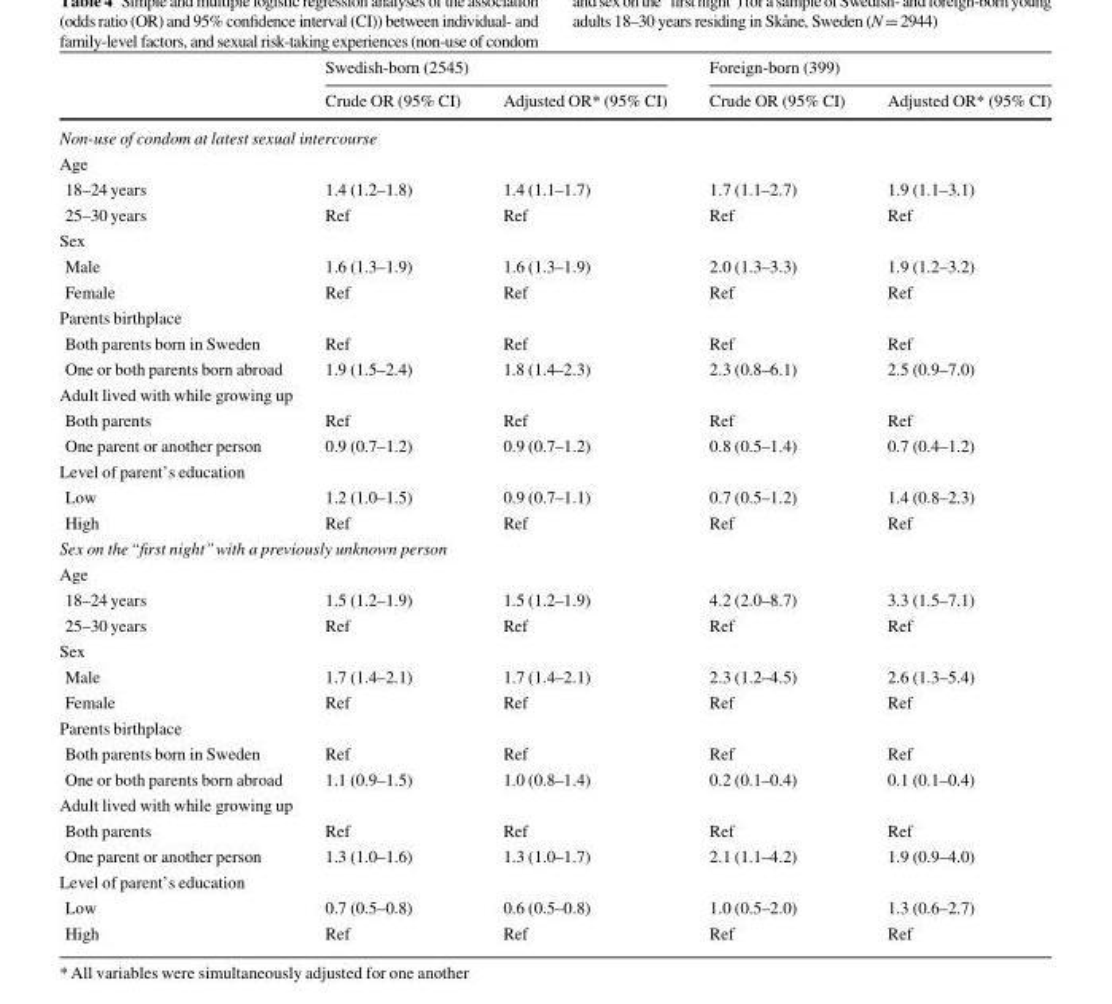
<table><thead><tr><td rowspan="2"></td><td colspan="2">Swedish-born (2545)</td><td colspan="2">Foreign-born (399)</td></tr><tr><td>Crude OR (95% CI)</td><td>Adjusted OR* (95% CI)</td><td>Crude OR (95% CI)</td><td>Adjusted OR* (95% CI)</td></tr></thead><tbody><tr><td colspan="5">Non-use of condom at latest sexual intercourse</td></tr><tr><td colspan="5">Age</td></tr><tr><td>18–24 years</td><td>1.4 (1.2–1.8)</td><td>1.4 (1.1–1.7)</td><td>1.7 (1.1–2.7)</td><td>1.9 (1.1–3.1)</td></tr><tr><td>25–30 years</td><td>Ref</td><td>Ref</td><td>Ref</td><td>Ref</td></tr><tr><td colspan="5">Sex</td></tr><tr><td>Male</td><td>1.6 (1.3–1.9)</td><td>1.6 (1.3–1.9)</td><td>2.0 (1.3–3.3)</td><td>1.9 (1.2–3.2)</td></tr><tr><td>Female</td><td>Ref</td><td>Ref</td><td>Ref</td><td>Ref</td></tr><tr><td colspan="5">Parents birthplace</td></tr><tr><td>Both parents born in Sweden</td><td>Ref</td><td>Ref</td><td>Ref</td><td>Ref</td></tr><tr><td>One or both parents born abroad</td><td>1.9 (1.5–2.4)</td><td>1.8 (1.4–2.3)</td><td>2.3 (0.8–6.1)</td><td>2.5 (0.9–7.0)</td></tr><tr><td colspan="5">Adult lived with while growing up</td></tr><tr><td>Both parents</td><td>Ref</td><td>Ref</td><td>Ref</td><td>Ref</td></tr><tr><td>One parent or another person</td><td>0.9 (0.7–1.2)</td><td>0.9 (0.7–1.2)</td><td>0.8 (0.5–1.4)</td><td>0.7 (0.4–1.2)</td></tr><tr><td colspan="5">Level of parent’s education</td></tr><tr><td>Low</td><td>1.2 (1.0–1.5)</td><td>0.9 (0.7–1.1)</td><td>0.7 (0.5–1.2)</td><td>1.4 (0.8–2.3)</td></tr><tr><td>High</td><td>Ref</td><td>Ref</td><td>Ref</td><td>Ref</td></tr><tr><td colspan="5">Sex on the‘‘first night’’with a previously unknown person</td></tr><tr><td colspan="5">Age</td></tr><tr><td>18–24 years</td><td>1.5 (1.2–1.9)</td><td>1.5 (1.2–1.9)</td><td>4.2 (2.0–8.7)</td><td>3.3 (1.5–7.1)</td></tr><tr><td>25–30 years</td><td>Ref</td><td>Ref</td><td>Ref</td><td>Ref</td></tr><tr><td colspan="5">Sex</td></tr><tr><td>Male</td><td>1.7 (1.4–2.1)</td><td>1.7 (1.4–2.1)</td><td>2.3 (1.2–4.5)</td><td>2.6 (1.3–5.4)</td></tr><tr><td>Female</td><td>Ref</td><td>Ref</td><td>Ref</td><td>Ref</td></tr><tr><td colspan="5">Parents birthplace</td></tr><tr><td>Both parents born in Sweden</td><td>Ref</td><td>Ref</td><td>Ref</td><td>Ref</td></tr><tr><td>One or both parents born abroad</td><td>1.1 (0.9–1.5)</td><td>1.0 (0.8–1.4)</td><td>0.2 (0.1–0.4)</td><td>0.1 (0.1–0.4)</td></tr><tr><td colspan="5">Adult lived with while growing up</td></tr><tr><td>Both parents</td><td>Ref</td><td>Ref</td><td>Ref</td><td>Ref</td></tr><tr><td>One parent or another person</td><td>1.3 (1.0–1.6)</td><td>1.3 (1.0–1.7)</td><td>2.1 (1.1–4.2)</td><td>1.9 (0.9–4.0)</td></tr><tr><td colspan="5">Level of parent’s education</td></tr><tr><td>Low</td><td>0.7 (0.5–0.8)</td><td>0.6 (0.5–0.8)</td><td>1.0 (0.5–2.0)</td><td>1.3 (0.6–2.7)</td></tr><tr><td>High</td><td>Ref</td><td>Ref</td><td>Ref</td><td>Ref</td></tr></tbody></table>